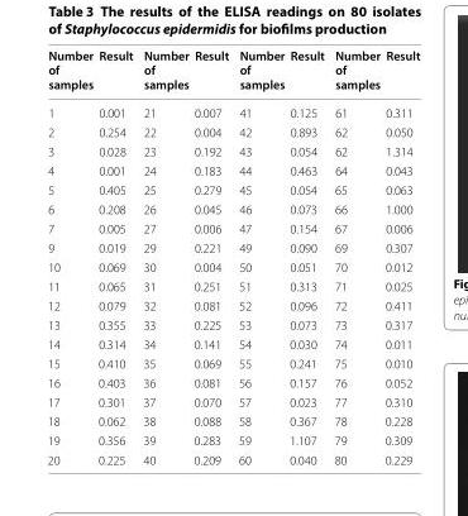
<table><thead><tr><td>Number of samples</td><td>Result</td><td>Number of samples</td><td>Result</td><td>Number of samples</td><td>Result</td><td>Number of samples</td><td>Result</td></tr></thead><tbody><tr><td>1</td><td>0.001</td><td>21</td><td>0.007</td><td>41</td><td>0.125</td><td>61</td><td>0.311</td></tr><tr><td>2</td><td>0.254</td><td>22</td><td>0.004</td><td>42</td><td>0.893</td><td>62</td><td>0.050</td></tr><tr><td>3</td><td>0.028</td><td>23</td><td>0.192</td><td>43</td><td>0.054</td><td>62</td><td>1.314</td></tr><tr><td>4</td><td>0.001</td><td>24</td><td>0.183</td><td>44</td><td>0.463</td><td>64</td><td>0.043</td></tr><tr><td>5</td><td>0.405</td><td>25</td><td>0.279</td><td>45</td><td>0.054</td><td>65</td><td>0.063</td></tr><tr><td>6</td><td>0.208</td><td>26</td><td>0.045</td><td>46</td><td>0.073</td><td>66</td><td>1.000</td></tr><tr><td>7</td><td>0.005</td><td>27</td><td>0.006</td><td>47</td><td>0.154</td><td>67</td><td>0.006</td></tr><tr><td>9</td><td>0.019</td><td>29</td><td>0.221</td><td>49</td><td>0.090</td><td>69</td><td>0.307</td></tr><tr><td>10</td><td>0.069</td><td>30</td><td>0.004</td><td>50</td><td>0.051</td><td>70</td><td>0.012</td></tr><tr><td>11</td><td>0.065</td><td>31</td><td>0.251</td><td>51</td><td>0.313</td><td>71</td><td>0.025</td></tr><tr><td>12</td><td>0.079</td><td>32</td><td>0.081</td><td>52</td><td>0.096</td><td>72</td><td>0.411</td></tr><tr><td>13</td><td>0.355</td><td>33</td><td>0.225</td><td>53</td><td>0.073</td><td>73</td><td>0.317</td></tr><tr><td>14</td><td>0.314</td><td>34</td><td>0.141</td><td>54</td><td>0.030</td><td>74</td><td>0.011</td></tr><tr><td>15</td><td>0.410</td><td>35</td><td>0.069</td><td>55</td><td>0.241</td><td>75</td><td>0.010</td></tr><tr><td>16</td><td>0.403</td><td>36</td><td>0.081</td><td>56</td><td>0.157</td><td>76</td><td>0.052</td></tr><tr><td>17</td><td>0.301</td><td>37</td><td>0.070</td><td>57</td><td>0.023</td><td>77</td><td>0.310</td></tr><tr><td>18</td><td>0.062</td><td>38</td><td>0.088</td><td>58</td><td>0.367</td><td>78</td><td>0.228</td></tr><tr><td>19</td><td>0.356</td><td>39</td><td>0.283</td><td>59</td><td>1.107</td><td>79</td><td>0.309</td></tr><tr><td>20</td><td>0.225</td><td>40</td><td>0.209</td><td>60</td><td>0.040</td><td>80</td><td>0.229</td></tr></tbody></table>